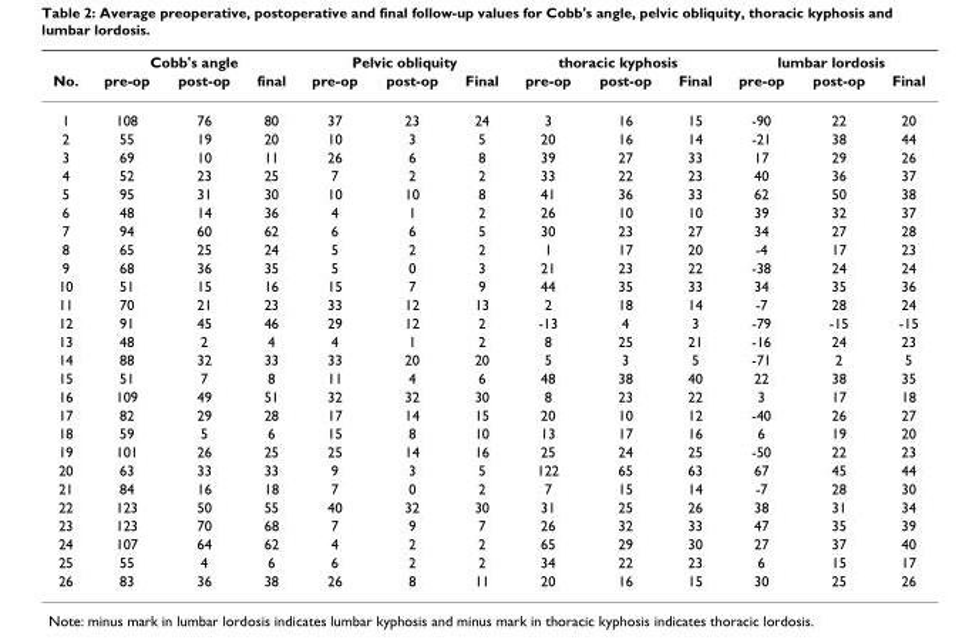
<table><thead><tr><td rowspan="2">No.</td><td colspan="3">Cobb&#x27;s angle</td><td colspan="3">Pelvic obliquity</td><td colspan="3">thoracic kyphosis</td><td colspan="3">lumbar lordosis</td></tr><tr><td>pre-op</td><td>post-op</td><td>final</td><td>pre-op</td><td>post-op</td><td>Final</td><td>pre-op</td><td>post-op</td><td>Final</td><td>pre-op</td><td>post-op</td><td>Final</td></tr></thead><tbody><tr><td>1</td><td>108</td><td>76</td><td>80</td><td>37</td><td>23</td><td>24</td><td>3</td><td>16</td><td>15</td><td>-90</td><td>22</td><td>20</td></tr><tr><td>2</td><td>55</td><td>19</td><td>20</td><td>10</td><td>3</td><td>5</td><td>20</td><td>16</td><td>14</td><td>-21</td><td>38</td><td>44</td></tr><tr><td>3</td><td>69</td><td>10</td><td>11</td><td>26</td><td>6</td><td>8</td><td>39</td><td>27</td><td>33</td><td>17</td><td>29</td><td>26</td></tr><tr><td>4</td><td>52</td><td>23</td><td>25</td><td>7</td><td>2</td><td>2</td><td>33</td><td>22</td><td>23</td><td>40</td><td>36</td><td>37</td></tr><tr><td>5</td><td>95</td><td>31</td><td>30</td><td>10</td><td>10</td><td>8</td><td>41</td><td>36</td><td>33</td><td>62</td><td>50</td><td>38</td></tr><tr><td>6</td><td>48</td><td>14</td><td>36</td><td>4</td><td>1</td><td>2</td><td>26</td><td>10</td><td>10</td><td>39</td><td>32</td><td>37</td></tr><tr><td>7</td><td>94</td><td>60</td><td>62</td><td>6</td><td>6</td><td>5</td><td>30</td><td>23</td><td>27</td><td>34</td><td>27</td><td>28</td></tr><tr><td>8</td><td>65</td><td>25</td><td>24</td><td>5</td><td>2</td><td>2</td><td>1</td><td>17</td><td>20</td><td>-4</td><td>17</td><td>23</td></tr><tr><td>9</td><td>68</td><td>36</td><td>35</td><td>5</td><td>0</td><td>3</td><td>21</td><td>23</td><td>22</td><td>-38</td><td>24</td><td>24</td></tr><tr><td>10</td><td>51</td><td>15</td><td>16</td><td>15</td><td>7</td><td>9</td><td>44</td><td>35</td><td>33</td><td>34</td><td>35</td><td>36</td></tr><tr><td>11</td><td>70</td><td>21</td><td>23</td><td>33</td><td>12</td><td>13</td><td>2</td><td>18</td><td>14</td><td>-7</td><td>28</td><td>24</td></tr><tr><td>12</td><td>91</td><td>45</td><td>46</td><td>29</td><td>12</td><td>2</td><td>-13</td><td>4</td><td>3</td><td>-79</td><td>-15</td><td>-15</td></tr><tr><td>13</td><td>48</td><td>2</td><td>4</td><td>4</td><td>1</td><td>2</td><td>8</td><td>25</td><td>21</td><td>-16</td><td>24</td><td>23</td></tr><tr><td>14</td><td>88</td><td>32</td><td>33</td><td>33</td><td>20</td><td>20</td><td>5</td><td>3</td><td>5</td><td>-71</td><td>2</td><td>5</td></tr><tr><td>15</td><td>51</td><td>7</td><td>8</td><td>11</td><td>4</td><td>6</td><td>48</td><td>38</td><td>40</td><td>22</td><td>38</td><td>35</td></tr><tr><td>16</td><td>109</td><td>49</td><td>51</td><td>32</td><td>32</td><td>30</td><td>8</td><td>23</td><td>22</td><td>3</td><td>17</td><td>18</td></tr><tr><td>17</td><td>82</td><td>29</td><td>28</td><td>17</td><td>14</td><td>15</td><td>20</td><td>10</td><td>12</td><td>-40</td><td>26</td><td>27</td></tr><tr><td>18</td><td>59</td><td>5</td><td>6</td><td>15</td><td>8</td><td>10</td><td>13</td><td>17</td><td>16</td><td>6</td><td>19</td><td>20</td></tr><tr><td>19</td><td>101</td><td>26</td><td>25</td><td>25</td><td>14</td><td>16</td><td>25</td><td>24</td><td>25</td><td>-50</td><td>22</td><td>23</td></tr><tr><td>20</td><td>63</td><td>33</td><td>33</td><td>9</td><td>3</td><td>5</td><td>122</td><td>65</td><td>63</td><td>67</td><td>45</td><td>44</td></tr><tr><td>21</td><td>84</td><td>16</td><td>18</td><td>7</td><td>0</td><td>2</td><td>7</td><td>15</td><td>14</td><td>-7</td><td>28</td><td>30</td></tr><tr><td>22</td><td>123</td><td>50</td><td>55</td><td>40</td><td>32</td><td>30</td><td>31</td><td>25</td><td>26</td><td>38</td><td>31</td><td>34</td></tr><tr><td>23</td><td>123</td><td>70</td><td>68</td><td>7</td><td>9</td><td>7</td><td>26</td><td>32</td><td>33</td><td>47</td><td>35</td><td>39</td></tr><tr><td>24</td><td>107</td><td>64</td><td>62</td><td>4</td><td>2</td><td>2</td><td>65</td><td>29</td><td>30</td><td>27</td><td>37</td><td>40</td></tr><tr><td>25</td><td>55</td><td>4</td><td>6</td><td>6</td><td>2</td><td>2</td><td>34</td><td>22</td><td>23</td><td>6</td><td>15</td><td>17</td></tr><tr><td>26</td><td>83</td><td>36</td><td>38</td><td>26</td><td>8</td><td>11</td><td>20</td><td>16</td><td>15</td><td>30</td><td>25</td><td>26</td></tr></tbody></table>